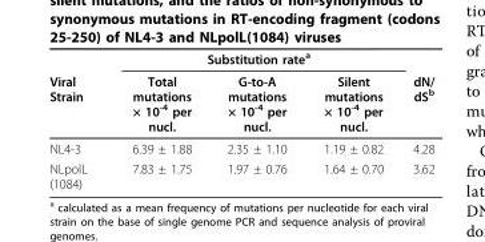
<table><thead><tr><td rowspan="2">Viral Strain</td><td colspan="3">Substitution rate<sup>a</sup></td><td rowspan="2">dN/ dS<sup>b</sup></td></tr><tr><td>Total mutations × 10<sup>-4</sup> per nucl.</td><td>G-to-A mutations × 10<sup>-4</sup> per nucl.</td><td>Silent mutations × 10<sup>-4</sup> per nucl.</td></tr></thead><tbody><tr><td>NL4-3</td><td>6.39 ± 1.88</td><td>2.35 ± 1.10</td><td>1.19 ± 0.82</td><td>4.28</td></tr><tr><td>NLpolL (1084)</td><td>7.83 ± 1.75</td><td>1.97 ± 0.76</td><td>1.64 ± 0.70</td><td>3.62</td></tr></tbody></table>